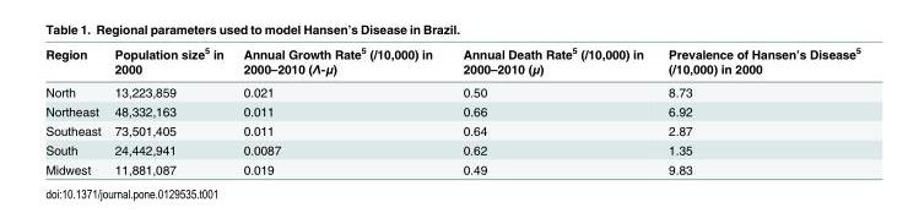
<table><thead><tr><td>Region</td><td>Population size<sup>5</sup> in 2000</td><td>Annual Growth Rate<sup>5</sup> (/10,000) in 2000–2010 (Λ-μ)</td><td>Annual Death Rate<sup>5</sup> (/10,000) in 2000–2010 (μ)</td><td>Prevalence of Hansen’s Disease<sup>5</sup> (/10,000) in 2000</td></tr></thead><tbody><tr><td>North</td><td>13,223,859</td><td>0.021</td><td>0.50</td><td>8.73</td></tr><tr><td>Northeast</td><td>48,332,163</td><td>0.011</td><td>0.66</td><td>6.92</td></tr><tr><td>Southeast</td><td>73,501,405</td><td>0.011</td><td>0.64</td><td>2.87</td></tr><tr><td>South</td><td>24,442,941</td><td>0.0087</td><td>0.62</td><td>1.35</td></tr><tr><td>Midwest</td><td>11,881,087</td><td>0.019</td><td>0.49</td><td>9.83</td></tr></tbody></table>